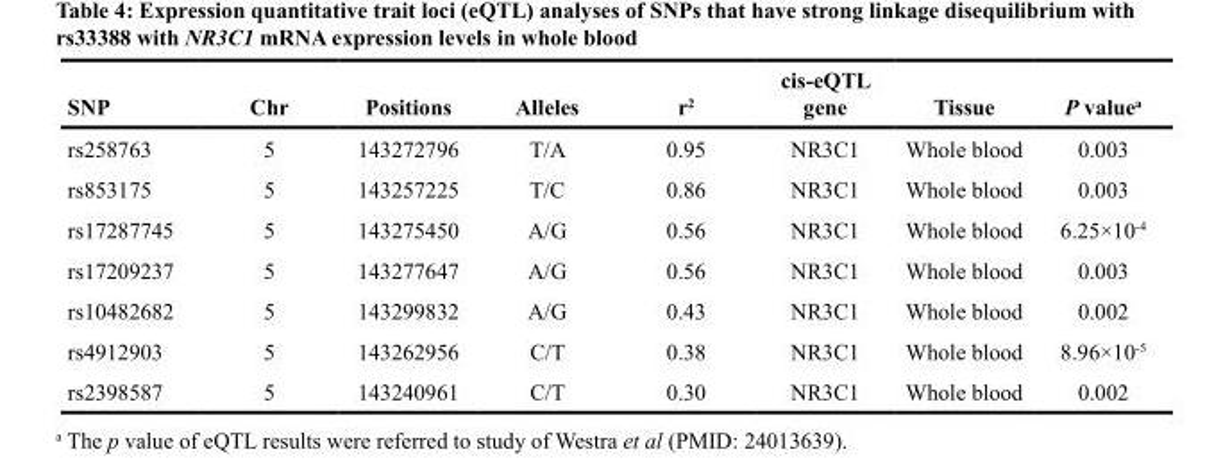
<table><thead><tr><td>SNP</td><td>Chr</td><td>Positions</td><td>Alleles</td><td>r<sup>2</sup></td><td>cis-eQTL gene</td><td>Tissue</td><td>P value<sup>a</sup></td></tr></thead><tbody><tr><td>rs258763</td><td>5</td><td>143272796</td><td>T/A</td><td>0.95</td><td>NR3C1</td><td>Whole blood</td><td>0.003</td></tr><tr><td>rs853175</td><td>5</td><td>143257225</td><td>T/C</td><td>0.86</td><td>NR3C1</td><td>Whole blood</td><td>0.003</td></tr><tr><td>rs17287745</td><td>5</td><td>143275450</td><td>A/G</td><td>0.56</td><td>NR3C1</td><td>Whole blood</td><td>6.25×10<sup>-4</sup></td></tr><tr><td>rs17209237</td><td>5</td><td>143277647</td><td>A/G</td><td>0.56</td><td>NR3C1</td><td>Whole blood</td><td>0.003</td></tr><tr><td>rs10482682</td><td>5</td><td>143299832</td><td>A/G</td><td>0.43</td><td>NR3C1</td><td>Whole blood</td><td>0.002</td></tr><tr><td>rs4912903</td><td>5</td><td>143262956</td><td>C/T</td><td>0.38</td><td>NR3C1</td><td>Whole blood</td><td>8.96×10<sup>-5</sup></td></tr><tr><td>rs2398587</td><td>5</td><td>143240961</td><td>C/T</td><td>0.30</td><td>NR3C1</td><td>Whole blood</td><td>0.002</td></tr></tbody></table>